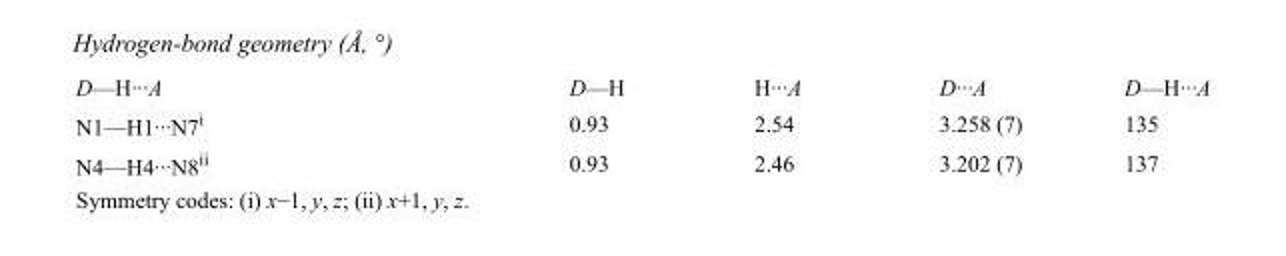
<table><tbody><tr><td>D—H···A</td><td>D—H</td><td>H···A</td><td>D···A</td><td>D—H···A</td></tr><tr><td>N1—H1···N7<sup>i</sup></td><td>0.93</td><td>2.54</td><td>3.258 (7)</td><td>135</td></tr><tr><td>N4—H4···N8<sup>ii</sup></td><td>0.93</td><td>2.46</td><td>3.202 (7)</td><td>137</td></tr></tbody></table>